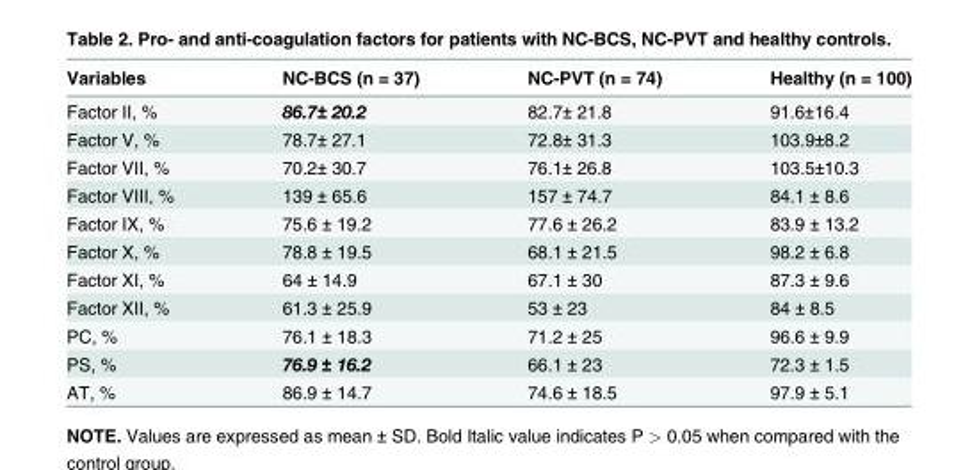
<table><thead><tr><td>Variables</td><td>NC-BCS (n = 37)</td><td>NC-PVT (n = 74)</td><td>Healthy (n = 100)</td></tr></thead><tbody><tr><td>Factor II, %</td><td>86.7± 20.2</td><td>82.7± 21.8</td><td>91.6±16.4</td></tr><tr><td>Factor V, %</td><td>78.7± 27.1</td><td>72.8± 31.3</td><td>103.9±8.2</td></tr><tr><td>Factor VII, %</td><td>70.2± 30.7</td><td>76.1± 26.8</td><td>103.5±10.3</td></tr><tr><td>Factor VIII, %</td><td>139 ± 65.6</td><td>157 ± 74.7</td><td>84.1 ± 8.6</td></tr><tr><td>Factor IX, %</td><td>75.6 ± 19.2</td><td>77.6 ± 26.2</td><td>83.9 ± 13.2</td></tr><tr><td>Factor X, %</td><td>78.8 ± 19.5</td><td>68.1 ± 21.5</td><td>98.2 ± 6.8</td></tr><tr><td>Factor XI, %</td><td>64 ± 14.9</td><td>67.1 ± 30</td><td>87.3 ± 9.6</td></tr><tr><td>Factor XII, %</td><td>61.3 ± 25.9</td><td>53 ± 23</td><td>84 ± 8.5</td></tr><tr><td>PC, %</td><td>76.1 ± 18.3</td><td>71.2 ± 25</td><td>96.6 ± 9.9</td></tr><tr><td>PS, %</td><td>76.9 ± 16.2</td><td>66.1 ± 23</td><td>72.3 ± 1.5</td></tr><tr><td>AT, %</td><td>86.9 ± 14.7</td><td>74.6 ± 18.5</td><td>97.9 ± 5.1</td></tr></tbody></table>